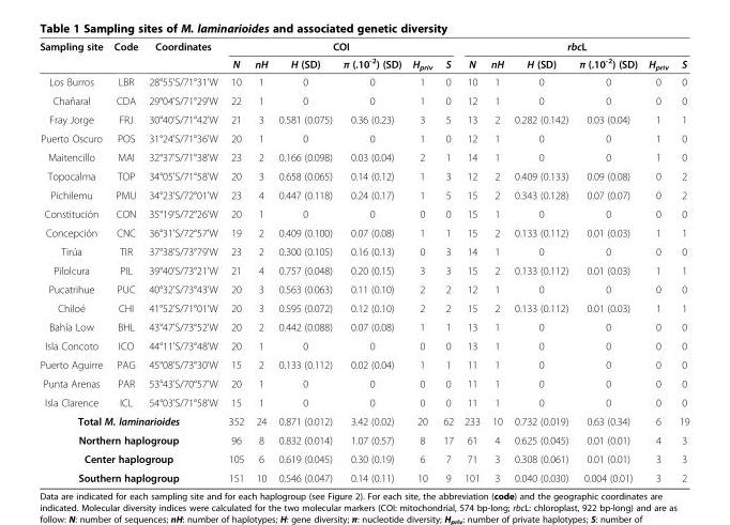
<table><thead><tr><td rowspan="2">Sampling site</td><td rowspan="2">Code</td><td rowspan="2">Coordinates</td><td colspan="6">COI</td><td colspan="6">rbcL</td></tr><tr><td>N</td><td>nH</td><td>H (SD)</td><td>π (.10<sup>-2</sup>) (SD)</td><td>H<sub>priv</sub></td><td>S</td><td>N</td><td>nH</td><td>H (SD)</td><td>π (.10<sup>-2</sup>) (SD)</td><td>H<sub>priv</sub></td><td>S</td></tr></thead><tbody><tr><td>Los Burros</td><td>LBR</td><td>28°55&#x27;S/71°31&#x27;W</td><td>10</td><td>1</td><td>0</td><td>0</td><td>1</td><td>0</td><td>10</td><td>1</td><td>0</td><td>0</td><td>0</td><td>0</td></tr><tr><td>Chañaral</td><td>CDA</td><td>29°04&#x27;S/71°29&#x27;W</td><td>22</td><td>1</td><td>0</td><td>0</td><td>1</td><td>0</td><td>12</td><td>1</td><td>0</td><td>0</td><td>0</td><td>0</td></tr><tr><td>Fray Jorge</td><td>FRJ</td><td>30°40&#x27;S/71°42&#x27;W</td><td>21</td><td>3</td><td>0.581 (0.075)</td><td>0.36 (0.23)</td><td>3</td><td>5</td><td>13</td><td>2</td><td>0.282 (0.142)</td><td>0.03 (0.04)</td><td>1</td><td>1</td></tr><tr><td>Puerto Oscuro</td><td>POS</td><td>31°24&#x27;S/71°36&#x27;W</td><td>20</td><td>1</td><td>0</td><td>0</td><td>1</td><td>0</td><td>12</td><td>1</td><td>0</td><td>0</td><td>1</td><td>0</td></tr><tr><td>Maitencillo</td><td>MAI</td><td>32°37&#x27;S/71°38&#x27;W</td><td>23</td><td>2</td><td>0.166 (0.098)</td><td>0.03 (0.04)</td><td>2</td><td>1</td><td>14</td><td>1</td><td>0</td><td>0</td><td>1</td><td>0</td></tr><tr><td>Topocalma</td><td>TOP</td><td>34°05&#x27;S/71°58&#x27;W</td><td>20</td><td>3</td><td>0.658 (0.065)</td><td>0.14 (0.12)</td><td>1</td><td>3</td><td>12</td><td>2</td><td>0.409 (0.133)</td><td>0.09 (0.08)</td><td>0</td><td>2</td></tr><tr><td>Pichilemu</td><td>PMU</td><td>34°23&#x27;S/72°01&#x27;W</td><td>23</td><td>4</td><td>0.447 (0.118)</td><td>0.24 (0.17)</td><td>1</td><td>5</td><td>15</td><td>2</td><td>0.343 (0.128)</td><td>0.07 (0.07)</td><td>0</td><td>2</td></tr><tr><td>Constitución</td><td>CON</td><td>35°19&#x27;S/72°26&#x27;W</td><td>20</td><td>1</td><td>0</td><td>0</td><td>0</td><td>0</td><td>15</td><td>1</td><td>0</td><td>0</td><td>0</td><td>0</td></tr><tr><td>Concepción</td><td>CNC</td><td>36°31&#x27;S/72°57&#x27;W</td><td>19</td><td>2</td><td>0.409 (0.100)</td><td>0.07 (0.08)</td><td>1</td><td>1</td><td>15</td><td>2</td><td>0.133 (0.112)</td><td>0.01 (0.03)</td><td>1</td><td>1</td></tr><tr><td>Tirúa</td><td>TIR</td><td>37°38&#x27;S/73°79&#x27;W</td><td>23</td><td>2</td><td>0.300 (0.105)</td><td>0.16 (0.13)</td><td>0</td><td>3</td><td>14</td><td>1</td><td>0</td><td>0</td><td>0</td><td>0</td></tr><tr><td>Pilolcura</td><td>PIL</td><td>39°40&#x27;S/73°21&#x27;W</td><td>21</td><td>4</td><td>0.757 (0.048)</td><td>0.20 (0.15)</td><td>3</td><td>3</td><td>15</td><td>2</td><td>0.133 (0.112)</td><td>0.01 (0.03)</td><td>1</td><td>1</td></tr><tr><td>Pucatrihue</td><td>PUC</td><td>40°32&#x27;S/73°43&#x27;W</td><td>20</td><td>3</td><td>0.563 (0.063)</td><td>0.11 (0.10)</td><td>2</td><td>2</td><td>12</td><td>1</td><td>0</td><td>0</td><td>0</td><td>0</td></tr><tr><td>Chiloé</td><td>CHI</td><td>41°52&#x27;S/71°01&#x27;W</td><td>20</td><td>3</td><td>0.595 (0.072)</td><td>0.12 (0.10)</td><td>2</td><td>2</td><td>15</td><td>2</td><td>0.133 (0.112)</td><td>0.01 (0.03)</td><td>1</td><td>1</td></tr><tr><td>Bahía Low</td><td>BHL</td><td>43°47&#x27;S/73°52&#x27;W</td><td>20</td><td>2</td><td>0.442 (0.088)</td><td>0.07 (0.08)</td><td>1</td><td>1</td><td>13</td><td>1</td><td>0</td><td>0</td><td>0</td><td>0</td></tr><tr><td>Isla Concoto</td><td>ICO</td><td>44°11&#x27;S/73°48&#x27;W</td><td>20</td><td>1</td><td>0</td><td>0</td><td>0</td><td>0</td><td>13</td><td>1</td><td>0</td><td>0</td><td>0</td><td>0</td></tr><tr><td>Puerto Aguirre</td><td>PAG</td><td>45°08&#x27;S/73°30&#x27;W</td><td>15</td><td>2</td><td>0.133 (0.112)</td><td>0.02 (0.04)</td><td>1</td><td>1</td><td>11</td><td>1</td><td>0</td><td>0</td><td>0</td><td>0</td></tr><tr><td>Punta Arenas</td><td>PAR</td><td>53°43&#x27;S/70°57&#x27;W</td><td>20</td><td>1</td><td>0</td><td>0</td><td>0</td><td>0</td><td>11</td><td>1</td><td>0</td><td>0</td><td>0</td><td>0</td></tr><tr><td>Isla Clarence</td><td>ICL</td><td>54°03&#x27;S/71°58&#x27;W</td><td>15</td><td>1</td><td>0</td><td>0</td><td>0</td><td>0</td><td>11</td><td>1</td><td>0</td><td>0</td><td>0</td><td>0</td></tr><tr><td colspan="3">Total M. laminarioides</td><td>352</td><td>24</td><td>0.871 (0.012)</td><td>3.42 (0.02)</td><td>20</td><td>62</td><td>233</td><td>10</td><td>0.732 (0.019)</td><td>0.63 (0.34)</td><td>6</td><td>19</td></tr><tr><td colspan="3">Northern haplogroup</td><td>96</td><td>8</td><td>0.832 (0.014)</td><td>1.07 (0.57)</td><td>8</td><td>17</td><td>61</td><td>4</td><td>0.625 (0.045)</td><td>0.01 (0.01)</td><td>4</td><td>3</td></tr><tr><td colspan="3">Center haplogroup</td><td>105</td><td>6</td><td>0.619 (0.045)</td><td>0.30 (0.19)</td><td>6</td><td>7</td><td>71</td><td>3</td><td>0.308 (0.061)</td><td>0.01 (0.01)</td><td>3</td><td>3</td></tr><tr><td colspan="3">Southern haplogroup</td><td>151</td><td>10</td><td>0.546 (0.047)</td><td>0.14 (0.11)</td><td>10</td><td>9</td><td>101</td><td>3</td><td>0.040 (0.030)</td><td>0.004 (0.01)</td><td>3</td><td>2</td></tr></tbody></table>